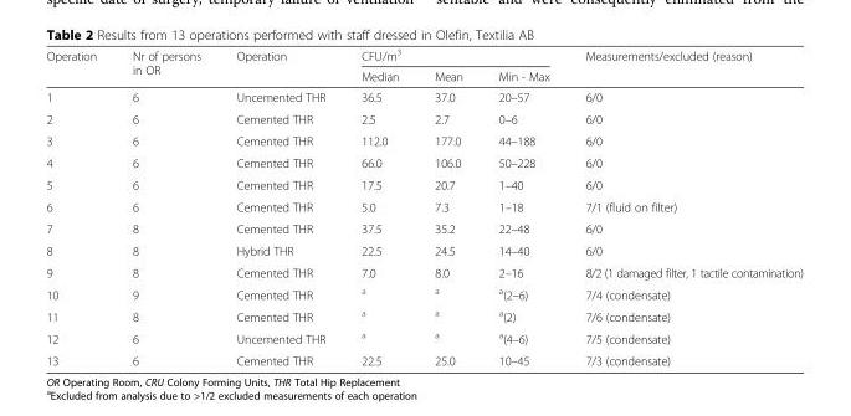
<table><thead><tr><td rowspan="2">Operation</td><td rowspan="2">Nr of persons in OR</td><td rowspan="2">Operation</td><td colspan="3">CFU/m<sup>3</sup></td><td rowspan="2">Measurements/excluded (reason)</td></tr><tr><td>Median</td><td>Mean</td><td>Min - Max</td></tr></thead><tbody><tr><td>1</td><td>6</td><td>Uncemented THR</td><td>36.5</td><td>37.0</td><td>20–57</td><td>6/0</td></tr><tr><td>2</td><td>6</td><td>Cemented THR</td><td>2.5</td><td>2.7</td><td>0–6</td><td>6/0</td></tr><tr><td>3</td><td>6</td><td>Cemented THR</td><td>112.0</td><td>177.0</td><td>44–188</td><td>6/0</td></tr><tr><td>4</td><td>6</td><td>Cemented THR</td><td>66.0</td><td>106.0</td><td>50–228</td><td>6/0</td></tr><tr><td>5</td><td>6</td><td>Cemented THR</td><td>17.5</td><td>20.7</td><td>1–40</td><td>6/0</td></tr><tr><td>6</td><td>6</td><td>Cemented THR</td><td>5.0</td><td>7.3</td><td>1–18</td><td>7/1 (fluid on filter)</td></tr><tr><td>7</td><td>8</td><td>Cemented THR</td><td>37.5</td><td>35.2</td><td>22–48</td><td>6/0</td></tr><tr><td>8</td><td>8</td><td>Hybrid THR</td><td>22.5</td><td>24.5</td><td>14–40</td><td>6/0</td></tr><tr><td>9</td><td>8</td><td>Cemented THR</td><td>7.0</td><td>8.0</td><td>2–16</td><td>8/2 (1 damaged filter, 1 tactile contamination)</td></tr><tr><td>10</td><td>9</td><td>Cemented THR</td><td><sup>a</sup></td><td><sup>a</sup></td><td><sup>a</sup>(2–6)</td><td>7/4 (condensate)</td></tr><tr><td>11</td><td>8</td><td>Cemented THR</td><td><sup>a</sup></td><td><sup>a</sup></td><td><sup>a</sup>(2)</td><td>7/6 (condensate)</td></tr><tr><td>12</td><td>6</td><td>Uncemented THR</td><td><sup>a</sup></td><td><sup>a</sup></td><td><sup>a</sup>(4–6)</td><td>7/5 (condensate)</td></tr><tr><td>13</td><td>6</td><td>Cemented THR</td><td>22.5</td><td>25.0</td><td>10–45</td><td>7/3 (condensate)</td></tr></tbody></table>